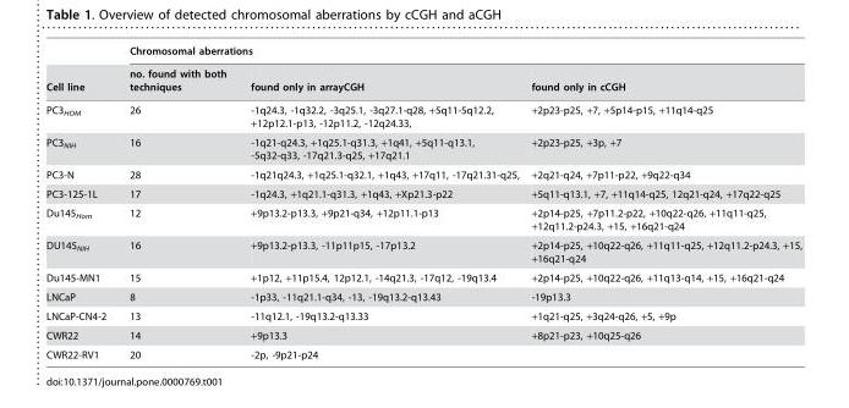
<table><thead><tr><td rowspan="2">Cell line</td><td colspan="3">Chromosomal aberrations</td></tr><tr><td>no. found with both techniques</td><td>found only in arrayCGH</td><td>found only in cCGH</td></tr></thead><tbody><tr><td>PC3<sub>HOM</sub></td><td>26</td><td>-1q24.3, -1q32.2, -3q25.1, -3q27.1-q28, +5q11-5q12.2, +12p12.1-p13, -12p11.2, -12q24.33,</td><td>+2p23-p25, +7, +5p14-p15, +11q14-q25</td></tr><tr><td>PC3<sub>NIH</sub></td><td>16</td><td>-1q21-q24.3, +1q25.1-q31.3, +1q41, +5q11-q13.1, -5q32-q33, -17q21.3-q25, +17q21.1</td><td>+2p23-p25, +3p, +7</td></tr><tr><td>PC3-N</td><td>28</td><td>-1q21q24.3, +1q25.1-q32.1, +1q43, +17q11, -17q21.31-q25,</td><td>+2q21-q24, +7p11-p22, +9q22-q34</td></tr><tr><td>PC3-125-1L</td><td>17</td><td>-1q24.3, +1q21.1-q31.3, +1q43, +Xp21.3-p22</td><td>+5q11-q13.1, +7, +11q14-q25, 12q21-q24, +17q22-q25</td></tr><tr><td>Du145<sub>Hom</sub></td><td>12</td><td>+9p13.2-p13.3, +9p21-q34, +12p11.1-p13</td><td>+2p14-p25, +7p11.2-p22, +10q22-q26, +11q11-q25, +12q11.2-p24.3, +15, +16q21-q24</td></tr><tr><td>DU145<sub>NIH</sub></td><td>16</td><td>+9p13.2-p13.3, -11p11p15, -17p13.2</td><td>+2p14-p25, +10q22-q26, +11q11-q25, +12q11.2-p24.3, +15, +16q21-q24</td></tr><tr><td>Du145-MN1</td><td>15</td><td>+1p12, +11p15.4, 12p12.1, -14q21.3, -17q12, -19q13.4</td><td>+2p14-p25, +10q22-q26, +11q13-q14, +15, +16q21-q24</td></tr><tr><td>LNCaP</td><td>8</td><td>-1p33, -11q21.1-q34, -13, -19q13.2-q13.43</td><td>-19p13.3</td></tr><tr><td>LNCaP-CN4-2</td><td>13</td><td>-11q12.1, -19q13.2-q13.33</td><td>+1q21-q25, +3q24-q26, +5, +9p</td></tr><tr><td>CWR22</td><td>14</td><td>+9p13.3</td><td>+8p21-p23, +10q25-q26</td></tr><tr><td>CWR22-RV1</td><td>20</td><td>-2p, -9p21-p24</td><td></td></tr></tbody></table>